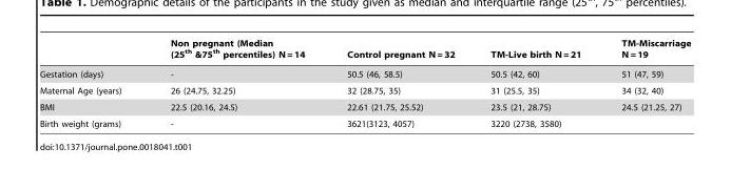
<table><thead><tr><td></td><td>Non pregnant (Median (25<sup>th</sup> &amp;75<sup>th</sup> percentiles) N = 14</td><td>Control pregnant N = 32</td><td>TM-Live birth N = 21</td><td>TM-Miscarriage N = 19</td></tr></thead><tbody><tr><td>Gestation (days)</td><td>-</td><td>50.5 (46, 58.5)</td><td>50.5 (42, 60)</td><td>51 (47, 59)</td></tr><tr><td>Maternal Age (years)</td><td>26 (24.75, 32.25)</td><td>32 (28.75, 35)</td><td>31 (25.5, 35)</td><td>34 (32, 40)</td></tr><tr><td>BMI</td><td>22.5 (20.16, 24.5)</td><td>22.61 (21.75, 25.52)</td><td>23.5 (21, 28.75)</td><td>24.5 (21.25, 27)</td></tr><tr><td>Birth weight (grams)</td><td>-</td><td>3621(3123, 4057)</td><td>3220 (2738, 3580)</td><td></td></tr></tbody></table>